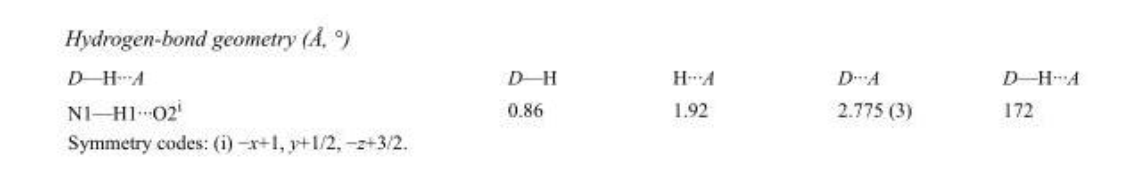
<table><tbody><tr><td>D—H···A</td><td>D—H</td><td>H···A</td><td>D···A</td><td>D—H···A</td></tr><tr><td>N1—H1···O2<sup>i</sup></td><td>0.86</td><td>1.92</td><td>2.775 (3)</td><td>172</td></tr></tbody></table>